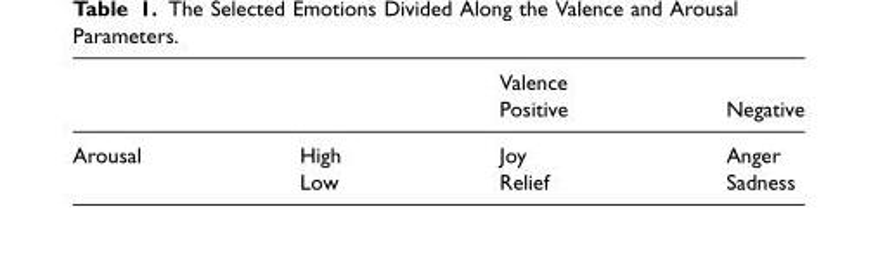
<table><thead><tr><td rowspan="2"></td><td rowspan="2"></td><td rowspan="2">Valence Positive</td><td rowspan="2">Negative</td></tr><tr></tr></thead><tbody><tr><td rowspan="2">Arousal</td><td>High</td><td>Joy</td><td>Anger</td></tr><tr><td>Low</td><td>Relief</td><td>Sadness</td></tr></tbody></table>